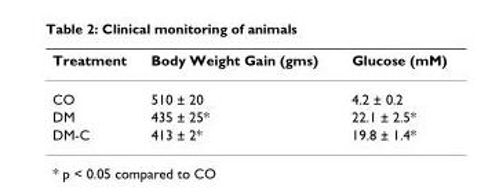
<table><thead><tr><td>Treatment</td><td>Body Weight Gain (gms)</td><td>Glucose (mM)</td></tr></thead><tbody><tr><td>CO</td><td>510 ± 20</td><td>4.2 ± 0.2</td></tr><tr><td>DM</td><td>435 ± 25*</td><td>22.1 ± 2.5*</td></tr><tr><td>DM-C</td><td>413 ± 2*</td><td>19.8 ± 1.4*</td></tr></tbody></table>